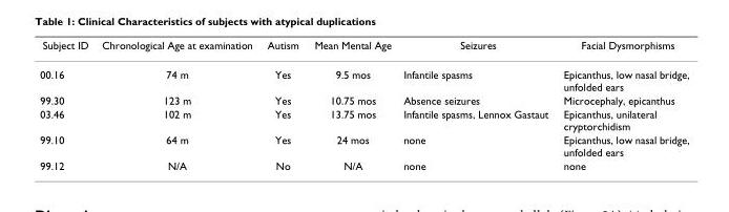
<table><thead><tr><td>Subject ID</td><td>Chronological Age at examination</td><td>Autism</td><td>Mean Mental Age</td><td>Seizures</td><td>Facial Dysmorphisms</td></tr></thead><tbody><tr><td>00.16</td><td>74 m</td><td>Yes</td><td>9.5 mos</td><td>Infantile spasms</td><td>Epicanthus, low nasal bridge, unfolded ears</td></tr><tr><td>99.30</td><td>123 m</td><td>Yes</td><td>10.75 mos</td><td>Absence seizures</td><td>Microcephaly, epicanthus</td></tr><tr><td>03.46</td><td>102 m</td><td>Yes</td><td>13.75 mos</td><td>Infantile spasms, Lennox Gastaut</td><td>Epicanthus, unilateral cryptorchidism</td></tr><tr><td>99.10</td><td>64 m</td><td>Yes</td><td>24 mos</td><td>none</td><td>Epicanthus, low nasal bridge, unfolded ears</td></tr><tr><td>99.12</td><td>N/A</td><td>No</td><td>N/A</td><td>none</td><td>none</td></tr></tbody></table>